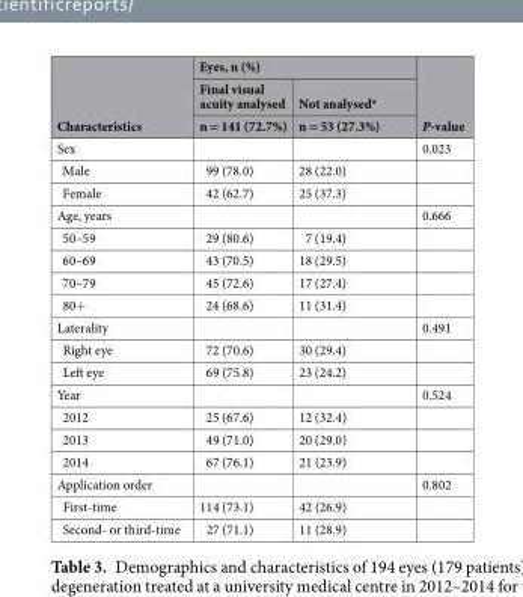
<table><thead><tr><td rowspan="3">Characteristics</td><td colspan="2">Eyes, n (%)</td><td rowspan="3">P-value</td></tr><tr><td rowspan="2">Final visual acuity analysed n = 141 (72.7%)</td><td rowspan="2">Not analysed<sup>a</sup> n = 53 (27.3%)</td></tr><tr></tr></thead><tbody><tr><td>Sex</td><td></td><td></td><td>0.023</td></tr><tr><td>Male</td><td>99 (78.0)</td><td>28 (22.0)</td><td></td></tr><tr><td>Female</td><td>42 (62.7)</td><td>25 (37.3)</td><td></td></tr><tr><td>Age, years</td><td></td><td></td><td>0.666</td></tr><tr><td>50–59</td><td>29 (80.6)</td><td>7 (19.4)</td><td></td></tr><tr><td>60–69</td><td>43 (70.5)</td><td>18 (29.5)</td><td></td></tr><tr><td>70–79</td><td>45 (72.6)</td><td>17 (27.4)</td><td></td></tr><tr><td>80+</td><td>24 (68.6)</td><td>11 (31.4)</td><td></td></tr><tr><td>Laterality</td><td></td><td></td><td>0.491</td></tr><tr><td>Right eye</td><td>72 (70.6)</td><td>30 (29.4)</td><td></td></tr><tr><td>Left eye</td><td>69 (75.8)</td><td>23 (24.2)</td><td></td></tr><tr><td>Year</td><td></td><td></td><td>0.524</td></tr><tr><td>2012</td><td>25 (67.6)</td><td>12 (32.4)</td><td></td></tr><tr><td>2013</td><td>49 (71.0)</td><td>20 (29.0)</td><td></td></tr><tr><td>2014</td><td>67 (76.1)</td><td>21 (23.9)</td><td></td></tr><tr><td>Application order</td><td></td><td></td><td>0.802</td></tr><tr><td>First-time</td><td>114 (73.1)</td><td>42 (26.9)</td><td></td></tr><tr><td>Second- or third-time</td><td>27 (71.1)</td><td>11 (28.9)</td><td></td></tr></tbody></table>